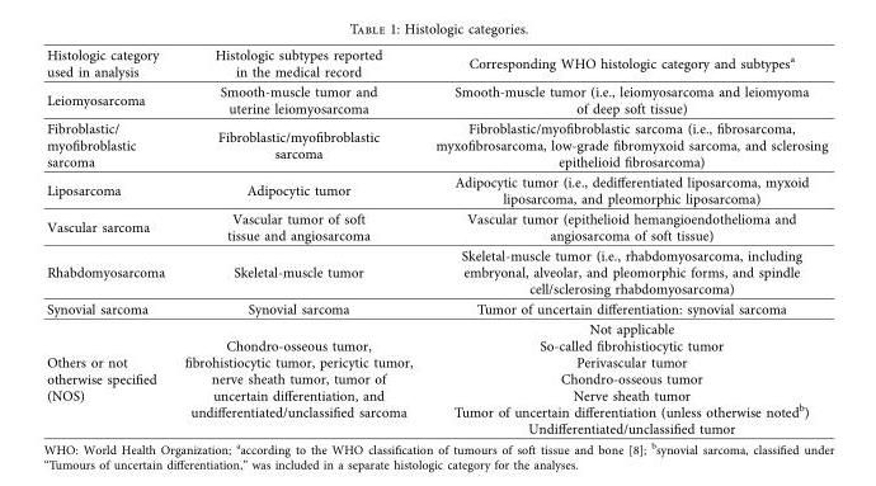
<table><thead><tr><td>Histologic category used in analysis</td><td>Histologic subtypes reported in the medical record</td><td>Corresponding WHO histologic category and subtypes<sup>a</sup></td></tr></thead><tbody><tr><td>Leiomyosarcoma</td><td>Smooth-muscle tumor and uterine leiomyosarcoma</td><td>Smooth-muscle tumor (i.e., leiomyosarcoma and leiomyoma of deep soft tissue)</td></tr><tr><td>Fibroblastic/ myofibroblastic sarcoma</td><td>Fibroblastic/myofibroblastic sarcoma</td><td>Fibroblastic/myofibroblastic sarcoma (i.e., fibrosarcoma, myxofibrosarcoma, low-grade fibromyxoid sarcoma, and sclerosing epithelioid fibrosarcoma)</td></tr><tr><td>Liposarcoma</td><td>Adipocytic tumor</td><td>Adipocytic tumor (i.e., dedifferentiated liposarcoma, myxoid liposarcoma, and pleomorphic liposarcoma)</td></tr><tr><td>Vascular sarcoma</td><td>Vascular tumor of soft tissue and angiosarcoma</td><td>Vascular tumor (epithelioid hemangioendothelioma and angiosarcoma of soft tissue)</td></tr><tr><td>Rhabdomyosarcoma</td><td>Skeletal-muscle tumor</td><td>Skeletal-muscle tumor (i.e., rhabdomyosarcoma, including embryonal, alveolar, and pleomorphic forms, and spindle cell/sclerosing rhabdomyosarcoma)</td></tr><tr><td>Synovial sarcoma</td><td>Synovial sarcoma</td><td>Tumor of uncertain differentiation: synovial sarcoma</td></tr><tr><td>Others or not otherwise specified (NOS)</td><td>Chondro-osseous tumor, fibrohistiocytic tumor, pericytic tumor, nerve sheath tumor, tumor of uncertain differentiation, and undifferentiated/unclassified sarcoma</td><td>Not applicable So-called fibrohistiocytic tumor Perivascular tumor Chondro-osseous tumor Nerve sheath tumor Tumor of uncertain differentiation (unless otherwise noted<sup>b</sup>) Undifferentiated/unclassified tumor</td></tr></tbody></table>